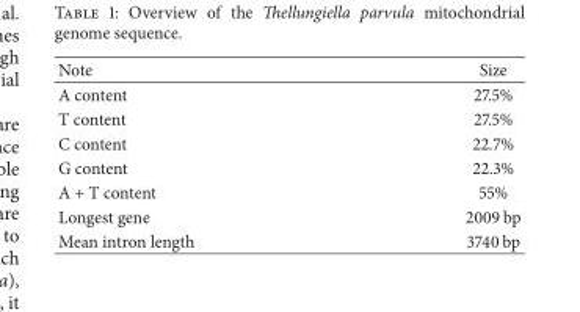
<table><thead><tr><td>Note</td><td>Size</td></tr></thead><tbody><tr><td>A content</td><td>27.5%</td></tr><tr><td>T content</td><td>27.5%</td></tr><tr><td>C content</td><td>22.7%</td></tr><tr><td>G content</td><td>22.3%</td></tr><tr><td>A + T content</td><td>55%</td></tr><tr><td>Longest gene</td><td>2009 bp</td></tr><tr><td>Mean intron length</td><td>3740 bp</td></tr></tbody></table>